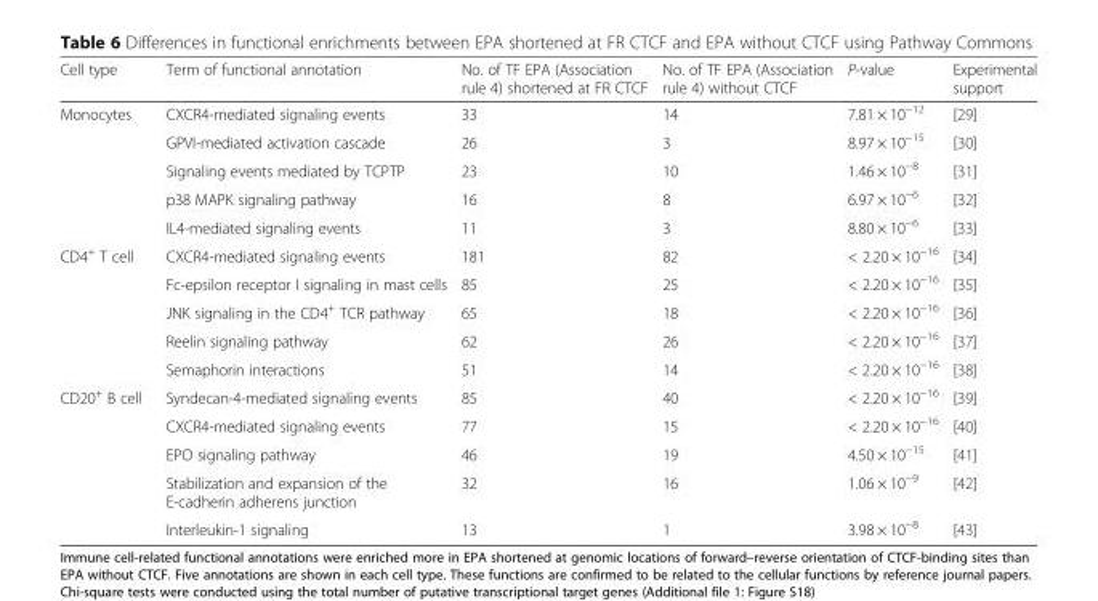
<table><thead><tr><td>Cell type</td><td>Term of functional annotation</td><td>No. of TF EPA (Association rule 4) shortened at FR CTCF</td><td>No. of TF EPA (Association rule 4) without CTCF</td><td>P-value</td><td>Experimental support</td></tr></thead><tbody><tr><td rowspan="5">Monocytes</td><td>CXCR4-mediated signaling events</td><td>33</td><td>14</td><td>7.81 × 10<sup>−12</sup></td><td>[29]</td></tr><tr><td>GPVI-mediated activation cascade</td><td>26</td><td>3</td><td>8.97 × 10<sup>−15</sup></td><td>[30]</td></tr><tr><td>Signaling events mediated by TCPTP</td><td>23</td><td>10</td><td>1.46 × 10<sup>−8</sup></td><td>[31]</td></tr><tr><td>p38 MAPK signaling pathway</td><td>16</td><td>8</td><td>6.97 × 10<sup>−6</sup></td><td>[32]</td></tr><tr><td>IL4-mediated signaling events</td><td>11</td><td>3</td><td>8.80 × 10<sup>−6</sup></td><td>[33]</td></tr><tr><td rowspan="5">CD4<sup>+</sup> T cell</td><td>CXCR4-mediated signaling events</td><td>181</td><td>82</td><td>&lt; 2.20 × 10<sup>−16</sup></td><td>[34]</td></tr><tr><td>Fc-epsilon receptor I signaling in mast cells</td><td>85</td><td>25</td><td>&lt; 2.20 × 10<sup>−16</sup></td><td>[35]</td></tr><tr><td>JNK signaling in the CD4<sup>+</sup> TCR pathway</td><td>65</td><td>18</td><td>&lt; 2.20 × 10<sup>−16</sup></td><td>[36]</td></tr><tr><td>Reelin signaling pathway</td><td>62</td><td>26</td><td>&lt; 2.20 × 10<sup>−16</sup></td><td>[37]</td></tr><tr><td>Semaphorin interactions</td><td>51</td><td>14</td><td>&lt; 2.20 × 10<sup>−16</sup></td><td>[38]</td></tr><tr><td rowspan="5">CD20<sup>+</sup> B cell</td><td>Syndecan-4-mediated signaling events</td><td>85</td><td>40</td><td>&lt; 2.20 × 10<sup>−16</sup></td><td>[39]</td></tr><tr><td>CXCR4-mediated signaling events</td><td>77</td><td>15</td><td>&lt; 2.20 × 10<sup>−16</sup></td><td>[40]</td></tr><tr><td>EPO signaling pathway</td><td>46</td><td>19</td><td>4.50 × 10<sup>−15</sup></td><td>[41]</td></tr><tr><td>Stabilization and expansion of the E-cadherin adherens junction</td><td>32</td><td>16</td><td>1.06 × 10<sup>−9</sup></td><td>[42]</td></tr><tr><td>Interleukin-1 signaling</td><td>13</td><td>1</td><td>3.98 × 10<sup>−8</sup></td><td>[43]</td></tr></tbody></table>